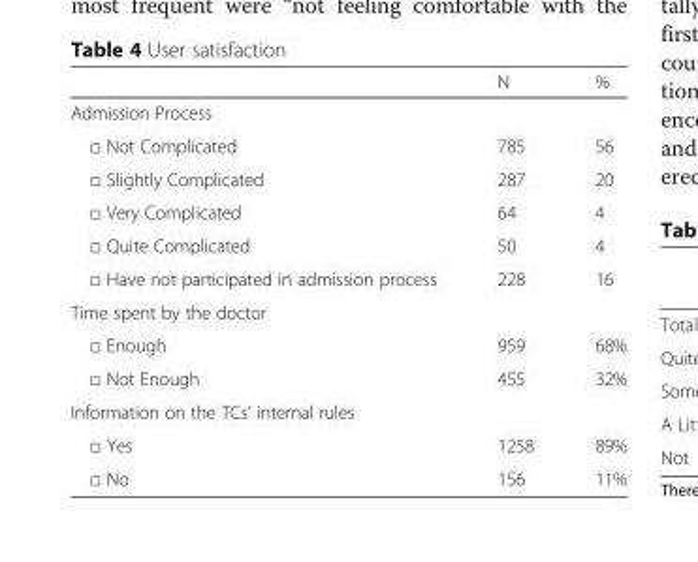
<table><thead><tr><td></td><td>N</td><td>%</td></tr></thead><tbody><tr><td colspan="3">Admission Process</td></tr><tr><td>□ Not Complicated</td><td>785</td><td>56</td></tr><tr><td>□ Slightly Complicated</td><td>287</td><td>20</td></tr><tr><td>□ Very Complicated</td><td>64</td><td>4</td></tr><tr><td>□ Quite Complicated</td><td>50</td><td>4</td></tr><tr><td>□ Have not participated in admission process</td><td>228</td><td>16</td></tr><tr><td colspan="3">Time spent by the doctor</td></tr><tr><td>□ Enough</td><td>959</td><td>68%</td></tr><tr><td>□ Not Enough</td><td>455</td><td>32%</td></tr><tr><td colspan="3">Information on the TCs’ internal rules</td></tr><tr><td>□ Yes</td><td>1258</td><td>89%</td></tr><tr><td>□ No</td><td>156</td><td>11%</td></tr></tbody></table>